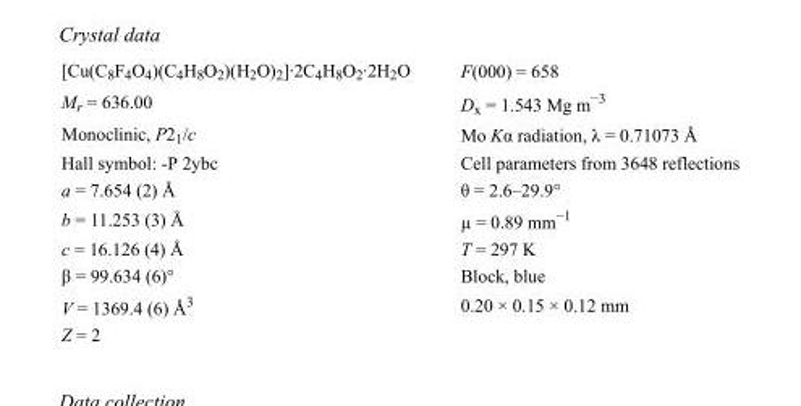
<table><tbody><tr><td>[Cu(C<sub>8</sub>F<sub>4</sub>O<sub>4</sub>)(C<sub>4</sub>H<sub>8</sub>O<sub>2</sub>)(H<sub>2</sub>O)<sub>2</sub>]·2C<sub>4</sub>H<sub>8</sub>O<sub>2</sub>·2H<sub>2</sub>O</td><td>F(000) = 658</td></tr><tr><td>M<sub>r</sub> = 636.00</td><td>D<sub>x</sub> = 1.543 Mg m<sup>−3</sup></td></tr><tr><td>Monoclinic, P2<sub>1</sub>/c</td><td>Mo Kα radiation, λ = 0.71073 Å</td></tr><tr><td>Hall symbol: -P 2ybc</td><td>Cell parameters from 3648 reflections</td></tr><tr><td>a = 7.654 (2) Å</td><td>θ = 2.6–29.9°</td></tr><tr><td>b = 11.253 (3) Å</td><td>µ = 0.89 mm<sup>−1</sup></td></tr><tr><td>c = 16.126 (4) Å</td><td>T = 297 K</td></tr><tr><td>β = 99.634 (6)°</td><td>Block, blue</td></tr><tr><td>V = 1369.4 (6) Å<sup>3</sup></td><td>0.20 × 0.15 × 0.12 mm</td></tr><tr><td>Z = 2</td><td></td></tr></tbody></table>